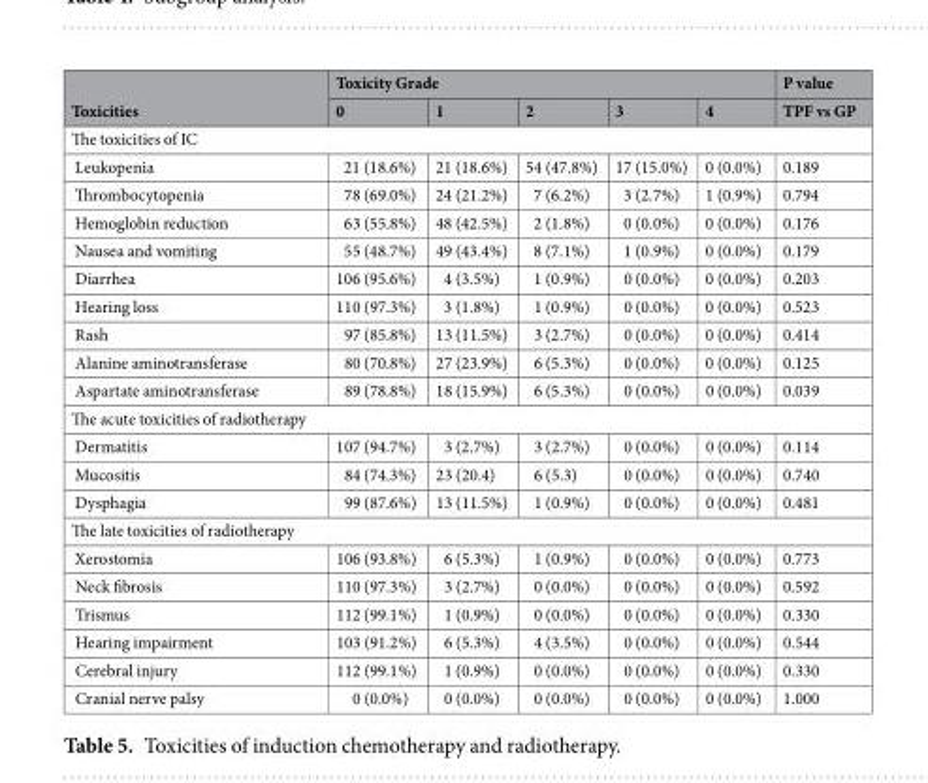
<table><thead><tr><td rowspan="2">Toxicities</td><td colspan="5">Toxicity Grade</td><td rowspan="2">P value TPF vs GP</td></tr><tr><td>0</td><td>1</td><td>2</td><td>3</td><td>4</td></tr></thead><tbody><tr><td colspan="7">The toxicities of IC</td></tr><tr><td>Leukopenia</td><td>21 (18.6%)</td><td>21 (18.6%)</td><td>54 (47.8%)</td><td>17 (15.0%)</td><td>0 (0.0%)</td><td>0.189</td></tr><tr><td>Thrombocytopenia</td><td>78 (69.0%)</td><td>24 (21.2%)</td><td>7 (6.2%)</td><td>3 (2.7%)</td><td>1 (0.9%)</td><td>0.794</td></tr><tr><td>Hemoglobin reduction</td><td>63 (55.8%)</td><td>48 (42.5%)</td><td>2 (1.8%)</td><td>0 (0.0%)</td><td>0 (0.0%)</td><td>0.176</td></tr><tr><td>Nausea and vomiting</td><td>55 (48.7%)</td><td>49 (43.4%)</td><td>8 (7.1%)</td><td>1 (0.9%)</td><td>0 (0.0%)</td><td>0.179</td></tr><tr><td>Diarrhea</td><td>106 (95.6%)</td><td>4 (3.5%)</td><td>1 (0.9%)</td><td>0 (0.0%)</td><td>0 (0.0%)</td><td>0.203</td></tr><tr><td>Hearing loss</td><td>110 (97.3%)</td><td>3 (1.8%)</td><td>1 (0.9%)</td><td>0 (0.0%)</td><td>0 (0.0%)</td><td>0.523</td></tr><tr><td>Rash</td><td>97 (85.8%)</td><td>13 (11.5%)</td><td>3 (2.7%)</td><td>0 (0.0%)</td><td>0 (0.0%)</td><td>0.414</td></tr><tr><td>Alanine aminotransferase</td><td>80 (70.8%)</td><td>27 (23.9%)</td><td>6 (5.3%)</td><td>0 (0.0%)</td><td>0 (0.0%)</td><td>0.125</td></tr><tr><td>Aspartate aminotransferase</td><td>89 (78.8%)</td><td>18 (15.9%)</td><td>6 (5.3%)</td><td>0 (0.0%)</td><td>0 (0.0%)</td><td>0.039</td></tr><tr><td colspan="7">The acute toxicities of radiotherapy</td></tr><tr><td>Dermatitis</td><td>107 (94.7%)</td><td>3 (2.7%)</td><td>3 (2.7%)</td><td>0 (0.0%)</td><td>0 (0.0%)</td><td>0.114</td></tr><tr><td>Mucositis</td><td>84 (74.3%)</td><td>23 (20.4)</td><td>6 (5.3)</td><td>0 (0.0%)</td><td>0 (0.0%)</td><td>0.740</td></tr><tr><td>Dysphagia</td><td>99 (87.6%)</td><td>13 (11.5%)</td><td>1 (0.9%)</td><td>0 (0.0%)</td><td>0 (0.0%)</td><td>0.481</td></tr><tr><td colspan="7">The late toxicities of radiotherapy</td></tr><tr><td>Xerostomia</td><td>106 (93.8%)</td><td>6 (5.3%)</td><td>1 (0.9%)</td><td>0 (0.0%)</td><td>0 (0.0%)</td><td>0.773</td></tr><tr><td>Neck fibrosis</td><td>110 (97.3%)</td><td>3 (2.7%)</td><td>0 (0.0%)</td><td>0 (0.0%)</td><td>0 (0.0%)</td><td>0.592</td></tr><tr><td>Trismus</td><td>112 (99.1%)</td><td>1 (0.9%)</td><td>0 (0.0%)</td><td>0 (0.0%)</td><td>0 (0.0%)</td><td>0.330</td></tr><tr><td>Hearing impairment</td><td>103 (91.2%)</td><td>6 (5.3%)</td><td>4 (3.5%)</td><td>0 (0.0%)</td><td>0 (0.0%)</td><td>0.544</td></tr><tr><td>Cerebral injury</td><td>112 (99.1%)</td><td>1 (0.9%)</td><td>0 (0.0%)</td><td>0 (0.0%)</td><td>0 (0.0%)</td><td>0.330</td></tr><tr><td>Cranial nerve palsy</td><td>0 (0.0%)</td><td>0 (0.0%)</td><td>0 (0.0%)</td><td>0 (0.0%)</td><td>0 (0.0%)</td><td>1.000</td></tr></tbody></table>